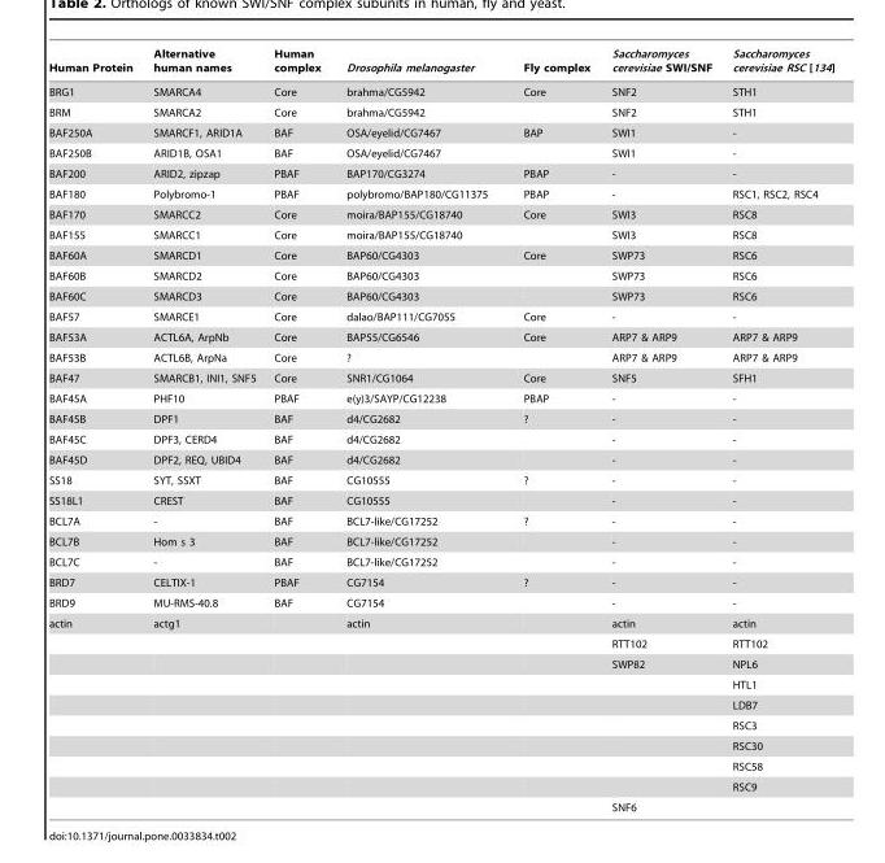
<table><thead><tr><td>Human Protein</td><td>Alternative human names</td><td>Human complex</td><td>Drosophila melanogaster</td><td>Fly complex</td><td>Saccharomyces cerevisiae SWI/SNF</td><td>Saccharomyces cerevisiae RSC [134]</td></tr></thead><tbody><tr><td>BRG1</td><td>SMARCA4</td><td>Core</td><td>brahma/CG5942</td><td>Core</td><td>SNF2</td><td>STH1</td></tr><tr><td>BRM</td><td>SMARCA2</td><td>Core</td><td>brahma/CG5942</td><td></td><td>SNF2</td><td>STH1</td></tr><tr><td>BAF250A</td><td>SMARCF1, ARID1A</td><td>BAF</td><td>OSA/eyelid/CG7467</td><td>BAP</td><td>SWI1</td><td>-</td></tr><tr><td>BAF250B</td><td>ARID1B, OSA1</td><td>BAF</td><td>OSA/eyelid/CG7467</td><td></td><td>SWI1</td><td>-</td></tr><tr><td>BAF200</td><td>ARID2, zipzap</td><td>PBAF</td><td>BAP170/CG3274</td><td>PBAP</td><td>-</td><td>-</td></tr><tr><td>BAF180</td><td>Polybromo-1</td><td>PBAF</td><td>polybromo/BAP180/CG11375</td><td>PBAP</td><td>-</td><td>RSC1, RSC2, RSC4</td></tr><tr><td>BAF170</td><td>SMARCC2</td><td>Core</td><td>moira/BAP155/CG18740</td><td>Core</td><td>SWI3</td><td>RSC8</td></tr><tr><td>BAF155</td><td>SMARCC1</td><td>Core</td><td>moira/BAP155/CG18740</td><td></td><td>SWI3</td><td>RSC8</td></tr><tr><td>BAF60A</td><td>SMARCD1</td><td>Core</td><td>BAP60/CG4303</td><td>Core</td><td>SWP73</td><td>RSC6</td></tr><tr><td>BAF60B</td><td>SMARCD2</td><td>Core</td><td>BAP60/CG4303</td><td></td><td>SWP73</td><td>RSC6</td></tr><tr><td>BAF60C</td><td>SMARCD3</td><td>Core</td><td>BAP60/CG4303</td><td></td><td>SWP73</td><td>RSC6</td></tr><tr><td>BAF57</td><td>SMARCE1</td><td>Core</td><td>dalao/BAP111/CG7055</td><td>Core</td><td>-</td><td>-</td></tr><tr><td>BAF53A</td><td>ACTL6A, ArpNb</td><td>Core</td><td>BAP55/CG6546</td><td>Core</td><td>ARP7 &amp; ARP9</td><td>ARP7 &amp; ARP9</td></tr><tr><td>BAF53B</td><td>ACTL6B, ArpNa</td><td>Core</td><td>?</td><td></td><td>ARP7 &amp; ARP9</td><td>ARP7 &amp; ARP9</td></tr><tr><td>BAF47</td><td>SMARCB1, INI1, SNF5</td><td>Core</td><td>SNR1/CG1064</td><td>Core</td><td>SNF5</td><td>SFH1</td></tr><tr><td>BAF45A</td><td>PHF10</td><td>PBAF</td><td>e(y)3/SAYP/CG12238</td><td>PBAP</td><td>-</td><td>-</td></tr><tr><td>BAF45B</td><td>DPF1</td><td>BAF</td><td>d4/CG2682</td><td>?</td><td>-</td><td>-</td></tr><tr><td>BAF45C</td><td>DPF3, CERD4</td><td>BAF</td><td>d4/CG2682</td><td></td><td>-</td><td>-</td></tr><tr><td>BAF45D</td><td>DPF2, REQ, UBID4</td><td>BAF</td><td>d4/CG2682</td><td></td><td>-</td><td>-</td></tr><tr><td>SS18</td><td>SYT, SSXT</td><td>BAF</td><td>CG10555</td><td>?</td><td>-</td><td>-</td></tr><tr><td>SS18L1</td><td>CREST</td><td>BAF</td><td>CG10555</td><td></td><td>-</td><td>-</td></tr><tr><td>BCL7A</td><td>-</td><td>BAF</td><td>BCL7-like/CG17252</td><td>?</td><td>-</td><td>-</td></tr><tr><td>BCL7B</td><td>Hom s 3</td><td>BAF</td><td>BCL7-like/CG17252</td><td></td><td>-</td><td>-</td></tr><tr><td>BCL7C</td><td>-</td><td>BAF</td><td>BCL7-like/CG17252</td><td></td><td>-</td><td>-</td></tr><tr><td>BRD7</td><td>CELTIX-1</td><td>PBAF</td><td>CG7154</td><td>?</td><td>-</td><td>-</td></tr><tr><td>BRD9</td><td>MU-RMS-40.8</td><td>BAF</td><td>CG7154</td><td></td><td>-</td><td>-</td></tr><tr><td rowspan="10">actin</td><td>actg1</td><td></td><td>actin</td><td></td><td>actin</td><td>actin</td></tr><tr><td></td><td></td><td></td><td></td><td>RTT102</td><td>RTT102</td></tr><tr><td></td><td></td><td></td><td></td><td>SWP82</td><td>NPL6</td></tr><tr><td></td><td></td><td></td><td></td><td></td><td>HTL1</td></tr><tr><td></td><td></td><td></td><td></td><td></td><td>LDB7</td></tr><tr><td></td><td></td><td></td><td></td><td></td><td>RSC3</td></tr><tr><td></td><td></td><td></td><td></td><td></td><td>RSC30</td></tr><tr><td></td><td></td><td></td><td></td><td></td><td>RSC58</td></tr><tr><td></td><td></td><td></td><td></td><td></td><td>RSC9</td></tr><tr><td></td><td></td><td></td><td></td><td>SNF6</td><td></td></tr></tbody></table>